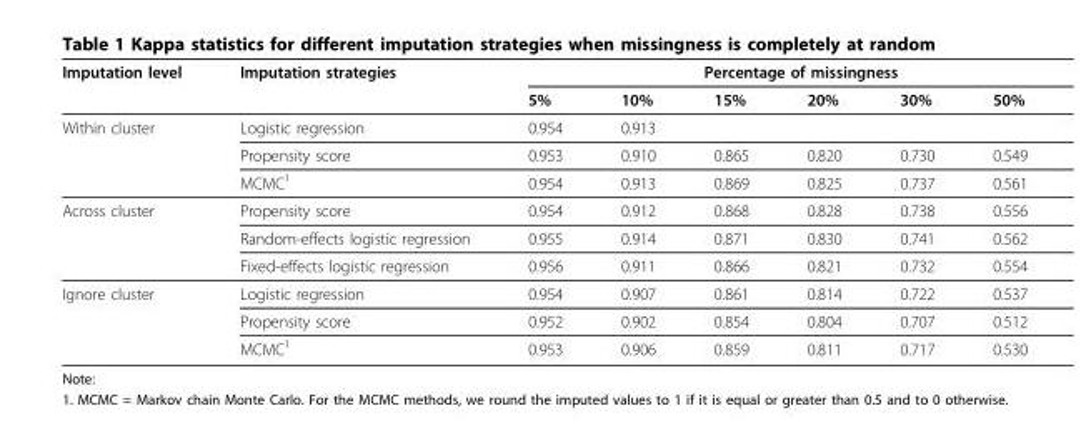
<table><thead><tr><td rowspan="2">Imputation level</td><td rowspan="2">Imputation strategies</td><td colspan="6">Percentage of missingness</td></tr><tr><td>5%</td><td>10%</td><td>15%</td><td>20%</td><td>30%</td><td>50%</td></tr></thead><tbody><tr><td rowspan="3">Within cluster</td><td>Logistic regression</td><td>0.954</td><td>0.913</td><td></td><td></td><td></td><td></td></tr><tr><td>Propensity score</td><td>0.953</td><td>0.910</td><td>0.865</td><td>0.820</td><td>0.730</td><td>0.549</td></tr><tr><td>MCMC<sup>1</sup></td><td>0.954</td><td>0.913</td><td>0.869</td><td>0.825</td><td>0.737</td><td>0.561</td></tr><tr><td rowspan="3">Across cluster</td><td>Propensity score</td><td>0.954</td><td>0.912</td><td>0.868</td><td>0.828</td><td>0.738</td><td>0.556</td></tr><tr><td>Random-effects logistic regression</td><td>0.955</td><td>0.914</td><td>0.871</td><td>0.830</td><td>0.741</td><td>0.562</td></tr><tr><td>Fixed-effects logistic regression</td><td>0.956</td><td>0.911</td><td>0.866</td><td>0.821</td><td>0.732</td><td>0.554</td></tr><tr><td rowspan="3">Ignore cluster</td><td>Logistic regression</td><td>0.954</td><td>0.907</td><td>0.861</td><td>0.814</td><td>0.722</td><td>0.537</td></tr><tr><td>Propensity score</td><td>0.952</td><td>0.902</td><td>0.854</td><td>0.804</td><td>0.707</td><td>0.512</td></tr><tr><td>MCMC<sup>1</sup></td><td>0.953</td><td>0.906</td><td>0.859</td><td>0.811</td><td>0.717</td><td>0.530</td></tr></tbody></table>